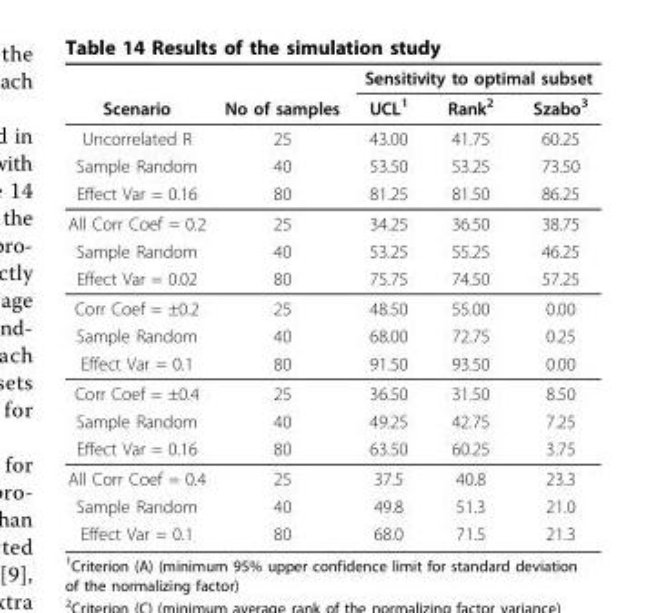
<table><thead><tr><td rowspan="2">Scenario</td><td rowspan="2">No of samples</td><td colspan="3">Sensitivity to optimal subset</td></tr><tr><td>UCL<sup>1</sup></td><td>Rank<sup>2</sup></td><td>Szabo<sup>3</sup></td></tr></thead><tbody><tr><td>Uncorrelated R</td><td>25</td><td>43.00</td><td>41.75</td><td>60.25</td></tr><tr><td>Sample Random</td><td>40</td><td>53.50</td><td>53.25</td><td>73.50</td></tr><tr><td>Effect Var = 0.16</td><td>80</td><td>81.25</td><td>81.50</td><td>86.25</td></tr><tr><td>All Corr Coef = 0.2</td><td>25</td><td>34.25</td><td>36.50</td><td>38.75</td></tr><tr><td>Sample Random</td><td>40</td><td>53.25</td><td>55.25</td><td>46.25</td></tr><tr><td>Effect Var = 0.02</td><td>80</td><td>75.75</td><td>74.50</td><td>57.25</td></tr><tr><td>Corr Coef = ±0.2</td><td>25</td><td>48.50</td><td>55.00</td><td>0.00</td></tr><tr><td>Sample Random</td><td>40</td><td>68.00</td><td>72.75</td><td>0.25</td></tr><tr><td>Effect Var = 0.1</td><td>80</td><td>91.50</td><td>93.50</td><td>0.00</td></tr><tr><td>Corr Coef = ±0.4</td><td>25</td><td>36.50</td><td>31.50</td><td>8.50</td></tr><tr><td>Sample Random</td><td>40</td><td>49.25</td><td>42.75</td><td>7.25</td></tr><tr><td>Effect Var = 0.16</td><td>80</td><td>63.50</td><td>60.25</td><td>3.75</td></tr><tr><td>All Corr Coef = 0.4</td><td>25</td><td>37.5</td><td>40.8</td><td>23.3</td></tr><tr><td>Sample Random</td><td>40</td><td>49.8</td><td>51.3</td><td>21.0</td></tr><tr><td>Effect Var = 0.1</td><td>80</td><td>68.0</td><td>71.5</td><td>21.3</td></tr></tbody></table>